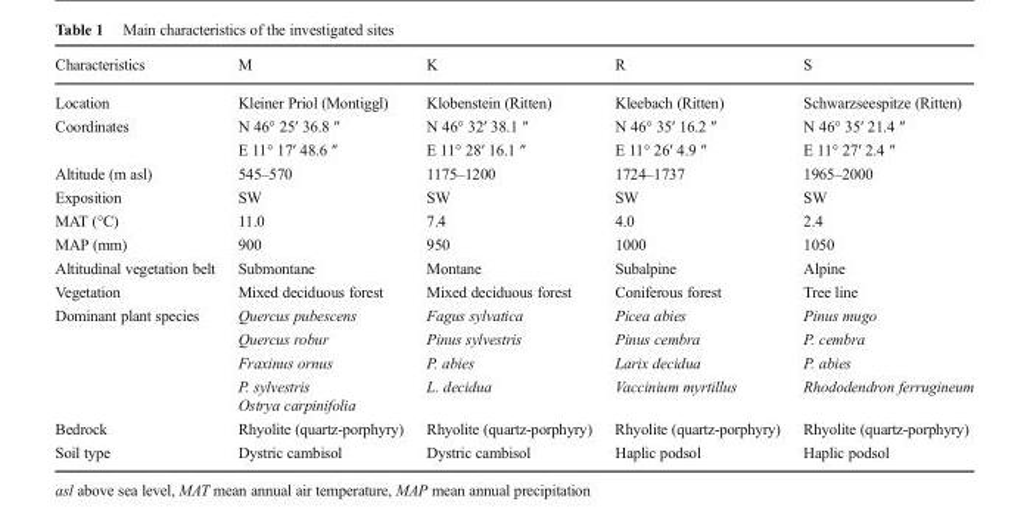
<table><thead><tr><td>Characteristics</td><td>M</td><td>K</td><td>R</td><td>S</td></tr></thead><tbody><tr><td>Location</td><td>Kleiner Priol (Montiggl)</td><td>Klobenstein (Ritten)</td><td>Kleebach (Ritten)</td><td>Schwarzseespitze (Ritten)</td></tr><tr><td rowspan="2">Coordinates</td><td>N 46° 25′ 36.8 ″</td><td>N 46° 32′ 38.1 ″</td><td>N 46° 35′ 16.2 ″</td><td>N 46° 35′ 21.4 ″</td></tr><tr><td>E 11° 17′ 48.6 ″</td><td>E 11° 28′ 16.1 ″</td><td>E 11° 26′ 4.9 ″</td><td>E 11° 27′ 2.4 ″</td></tr><tr><td>Altitude (m asl)</td><td>545–570</td><td>1175–1200</td><td>1724–1737</td><td>1965–2000</td></tr><tr><td>Exposition</td><td>SW</td><td>SW</td><td>SW</td><td>SW</td></tr><tr><td>MAT (°C)</td><td>11.0</td><td>7.4</td><td>4.0</td><td>2.4</td></tr><tr><td>MAP (mm)</td><td>900</td><td>950</td><td>1000</td><td>1050</td></tr><tr><td>Altitudinal vegetation belt</td><td>Submontane</td><td>Montane</td><td>Subalpine</td><td>Alpine</td></tr><tr><td>Vegetation</td><td>Mixed deciduous forest</td><td>Mixed deciduous forest</td><td>Coniferous forest</td><td>Tree line</td></tr><tr><td rowspan="5">Dominant plant species</td><td>Quercus pubescens</td><td>Fagus sylvatica</td><td>Picea abies</td><td>Pinus mugo</td></tr><tr><td>Quercus robur</td><td>Pinus sylvestris</td><td>Pinus cembra</td><td>P. cembra</td></tr><tr><td>Fraxinus ornus</td><td>P. abies</td><td>Larix decidua</td><td>P. abies</td></tr><tr><td>P. sylvestris</td><td rowspan="2">L. decidua</td><td rowspan="2">Vaccinium myrtillus</td><td rowspan="2">Rhododendron ferrugineum</td></tr><tr><td>Ostrya carpinifolia</td></tr><tr><td>Bedrock</td><td>Rhyolite (quartz-porphyry)</td><td>Rhyolite (quartz-porphyry)</td><td>Rhyolite (quartz-porphyry)</td><td>Rhyolite (quartz-porphyry)</td></tr><tr><td>Soil type</td><td>Dystric cambisol</td><td>Dystric cambisol</td><td>Haplic podsol</td><td>Haplic podsol</td></tr></tbody></table>